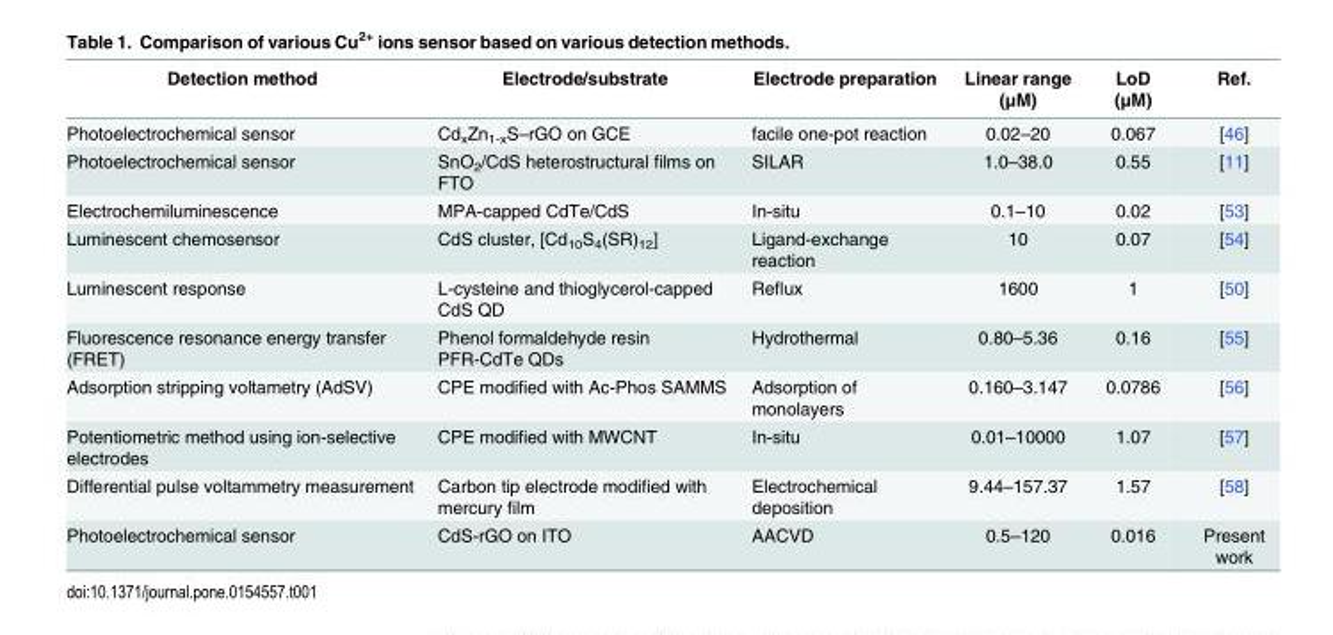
<table><thead><tr><td>Detection method</td><td>Electrode/substrate</td><td>Electrode preparation</td><td>Linear range (μM)</td><td>LoD (μM)</td><td>Ref.</td></tr></thead><tbody><tr><td>Photoelectrochemical sensor</td><td>Cd<sub>x</sub>Zn<sub>1-x</sub>S–rGO on GCE</td><td>facile one-pot reaction</td><td>0.02–20</td><td>0.067</td><td>[46]</td></tr><tr><td>Photoelectrochemical sensor</td><td>SnO<sub>2</sub>/CdS heterostructural films on FTO</td><td>SILAR</td><td>1.0–38.0</td><td>0.55</td><td>[11]</td></tr><tr><td>Electrochemiluminescence</td><td>MPA-capped CdTe/CdS</td><td>In-situ</td><td>0.1–10</td><td>0.02</td><td>[53]</td></tr><tr><td>Luminescent chemosensor</td><td>CdS cluster, [Cd<sub>10</sub>S<sub>4</sub>(SR)<sub>12</sub>]</td><td>Ligand-exchange reaction</td><td>10</td><td>0.07</td><td>[54]</td></tr><tr><td>Luminescent response</td><td>L-cysteine and thioglycerol-capped CdS QD</td><td>Reflux</td><td>1600</td><td>1</td><td>[50]</td></tr><tr><td>Fluorescence resonance energy transfer (FRET)</td><td>Phenol formaldehyde resin PFR-CdTe QDs</td><td>Hydrothermal</td><td>0.80–5.36</td><td>0.16</td><td>[55]</td></tr><tr><td>Adsorption stripping voltametry (AdSV)</td><td>CPE modified with Ac-Phos SAMMS</td><td>Adsorption of monolayers</td><td>0.160–3.147</td><td>0.0786</td><td>[56]</td></tr><tr><td>Potentiometric method using ion-selective electrodes</td><td>CPE modified with MWCNT</td><td>In-situ</td><td>0.01–10000</td><td>1.07</td><td>[57]</td></tr><tr><td>Differential pulse voltammetry measurement</td><td>Carbon tip electrode modified with mercury film</td><td>Electrochemical deposition</td><td>9.44–157.37</td><td>1.57</td><td>[58]</td></tr><tr><td>Photoelectrochemical sensor</td><td>CdS-rGO on ITO</td><td>AACVD</td><td>0.5–120</td><td>0.016</td><td>Present work</td></tr></tbody></table>